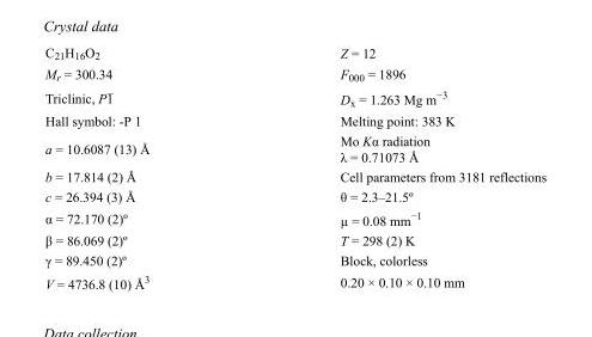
<table><tbody><tr><td>C<sub>21</sub>H<sub>16</sub>O<sub>2</sub></td><td>Z = 12</td></tr><tr><td>M<sub>r</sub> = 300.34</td><td>F000 = 1896</td></tr><tr><td>Triclinic, P1</td><td>D<sub>x</sub> = 1.263 Mg m<sup>−3</sup></td></tr><tr><td>Hall symbol: -P 1</td><td>Melting point: 383 K</td></tr><tr><td>a = 10.6087 (13) Å</td><td>Mo Kα radiation λ = 0.71073 Å</td></tr><tr><td>b = 17.814 (2) Å</td><td>Cell parameters from 3181 reflections</td></tr><tr><td>c = 26.394 (3) Å</td><td>θ = 2.3–21.5º</td></tr><tr><td>α = 72.170 (2)º</td><td>µ = 0.08 mm<sup>−1</sup></td></tr><tr><td>β = 86.069 (2)º</td><td>T = 298 (2) K</td></tr><tr><td>γ = 89.450 (2)º</td><td>Block, colorless</td></tr><tr><td>V = 4736.8 (10) Å<sup>3</sup></td><td>0.20 × 0.10 × 0.10 mm</td></tr></tbody></table>